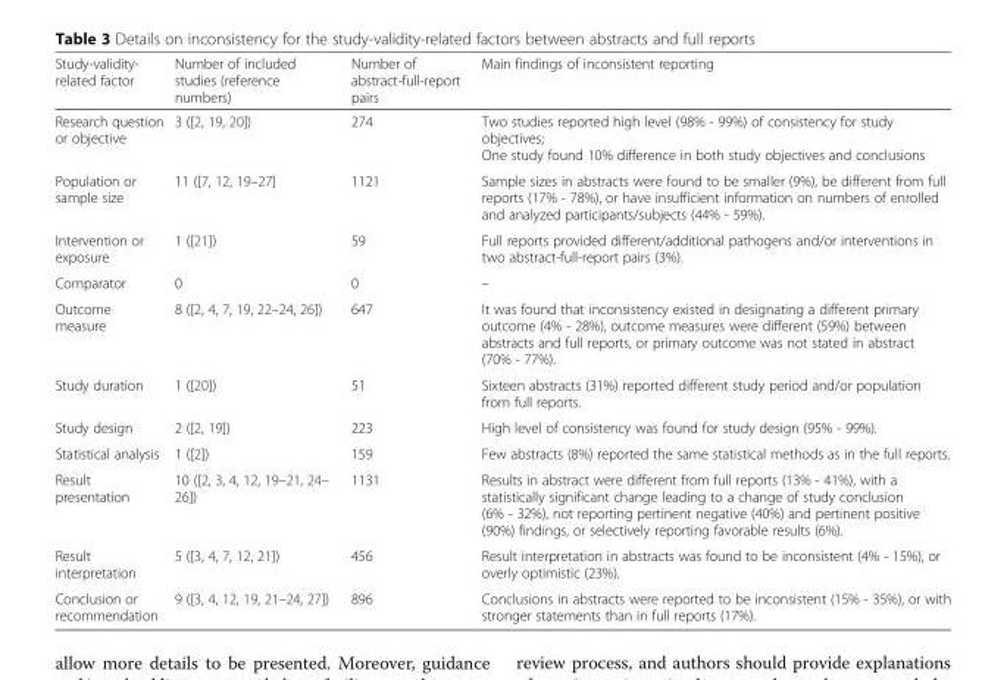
<table><thead><tr><td>Study-validity- related factor</td><td>Number of included studies (reference numbers)</td><td>Number of abstract-full-report pairs</td><td>Main findings of inconsistent reporting</td></tr></thead><tbody><tr><td>Research question or objective</td><td>3 ([2, 19, 20])</td><td>274</td><td>Two studies reported high level (98% - 99%) of consistency for study objectives; One study found 10% difference in both study objectives and conclusions</td></tr><tr><td>Population or sample size</td><td>11 ([7, 12, 19–27]</td><td>1121</td><td>Sample sizes in abstracts were found to be smaller (9%), be different from full reports (17% - 78%), or have insufficient information on numbers of enrolled and analyzed participants/subjects (44% - 59%).</td></tr><tr><td>Intervention or exposure</td><td>1 ([21])</td><td>59</td><td>Full reports provided different/additional pathogens and/or interventions in two abstract-full-report pairs (3%).</td></tr><tr><td>Comparator</td><td>0</td><td>0</td><td>–</td></tr><tr><td>Outcome measure</td><td>8 ([2, 4, 7, 19, 22–24, 26])</td><td>647</td><td>It was found that inconsistency existed in designating a different primary outcome (4% - 28%), outcome measures were different (59%) between abstracts and full reports, or primary outcome was not stated in abstract (70% - 77%).</td></tr><tr><td>Study duration</td><td>1 ([20])</td><td>51</td><td>Sixteen abstracts (31%) reported different study period and/or population from full reports.</td></tr><tr><td>Study design</td><td>2 ([2, 19])</td><td>223</td><td>High level of consistency was found for study design (95% - 99%).</td></tr><tr><td>Statistical analysis</td><td>1 ([2])</td><td>159</td><td>Few abstracts (8%) reported the same statistical methods as in the full reports.</td></tr><tr><td>Result presentation</td><td>10 ([2, 3, 4, 12, 19–21, 24– 26])</td><td>1131</td><td>Results in abstract were different from full reports (13% - 41%), with a statistically significant change leading to a change of study conclusion (6% - 32%), not reporting pertinent negative (40%) and pertinent positive (90%) findings, or selectively reporting favorable results (6%).</td></tr><tr><td>Result interpretation</td><td>5 ([3, 4, 7, 12, 21])</td><td>456</td><td>Result interpretation in abstracts was found to be inconsistent (4% - 15%), or overly optimistic (23%).</td></tr><tr><td>Conclusion or recommendation</td><td>9 ([3, 4, 12, 19, 21–24, 27])</td><td>896</td><td>Conclusions in abstracts were reported to be inconsistent (15% - 35%), or with stronger statements than in full reports (17%).</td></tr></tbody></table>